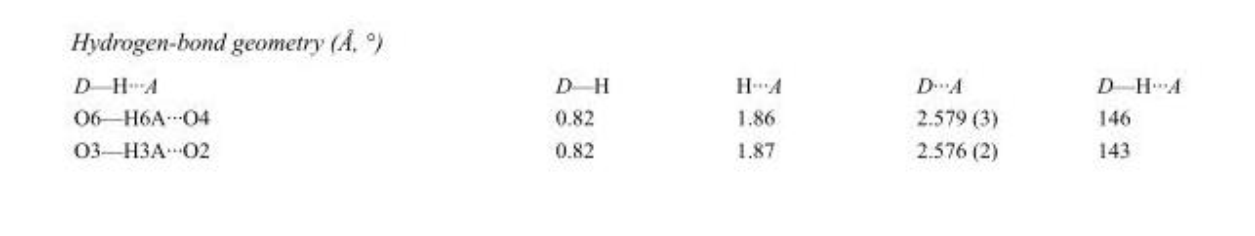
<table><tbody><tr><td>D—H···A</td><td>D—H</td><td>H···A</td><td>D···A</td><td>D—H···A</td></tr><tr><td>O6—H6A···O4</td><td>0.82</td><td>1.86</td><td>2.579 (3)</td><td>146</td></tr><tr><td>O3—H3A···O2</td><td>0.82</td><td>1.87</td><td>2.576 (2)</td><td>143</td></tr></tbody></table>